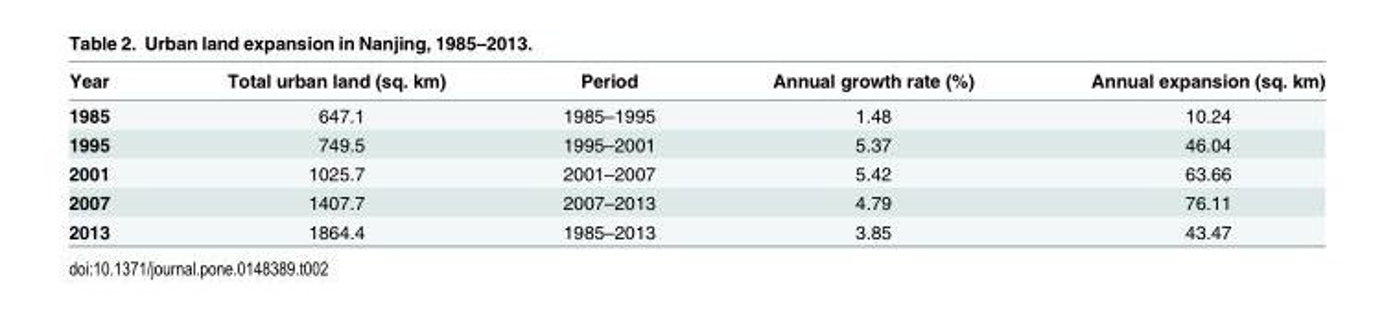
<table><thead><tr><td>Year</td><td>Total urban land (sq. km)</td><td>Period</td><td>Annual growth rate (%)</td><td>Annual expansion (sq. km)</td></tr></thead><tbody><tr><td>1985</td><td>647.1</td><td>1985–1995</td><td>1.48</td><td>10.24</td></tr><tr><td>1995</td><td>749.5</td><td>1995–2001</td><td>5.37</td><td>46.04</td></tr><tr><td>2001</td><td>1025.7</td><td>2001–2007</td><td>5.42</td><td>63.66</td></tr><tr><td>2007</td><td>1407.7</td><td>2007–2013</td><td>4.79</td><td>76.11</td></tr><tr><td>2013</td><td>1864.4</td><td>1985–2013</td><td>3.85</td><td>43.47</td></tr></tbody></table>